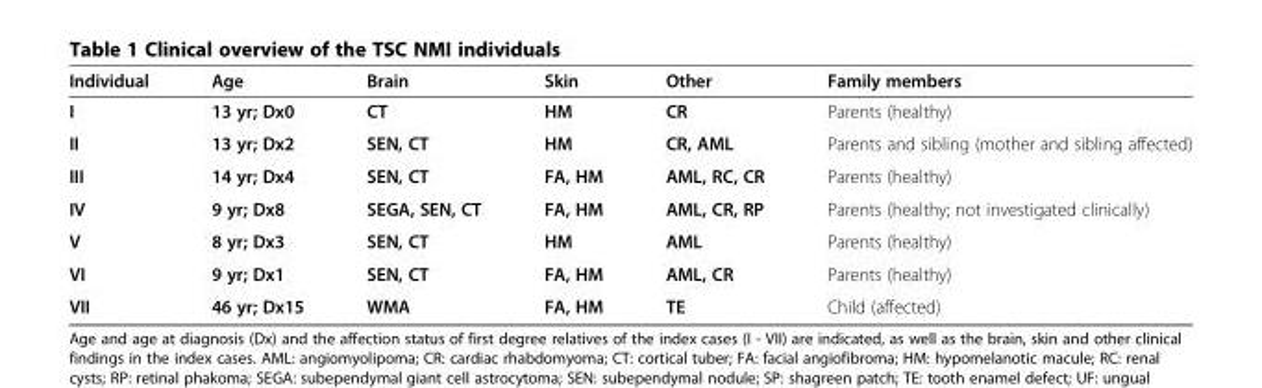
<table><thead><tr><td>Individual</td><td>Age</td><td>Brain</td><td>Skin</td><td>Other</td><td>Family members</td></tr></thead><tbody><tr><td>I</td><td>13 yr; Dx0</td><td>CT</td><td>HM</td><td>CR</td><td>Parents (healthy)</td></tr><tr><td>II</td><td>13 yr; Dx2</td><td>SEN, CT</td><td>HM</td><td>CR, AML</td><td>Parents and sibling (mother and sibling affected)</td></tr><tr><td>III</td><td>14 yr; Dx4</td><td>SEN, CT</td><td>FA, HM</td><td>AML, RC, CR</td><td>Parents (healthy)</td></tr><tr><td>IV</td><td>9 yr; Dx8</td><td>SEGA, SEN, CT</td><td>FA, HM</td><td>AML, CR, RP</td><td>Parents (healthy; not investigated clinically)</td></tr><tr><td>V</td><td>8 yr; Dx3</td><td>SEN, CT</td><td>HM</td><td>AML</td><td>Parents (healthy)</td></tr><tr><td>VI</td><td>9 yr; Dx1</td><td>SEN, CT</td><td>FA, HM</td><td>AML, CR</td><td>Parents (healthy)</td></tr><tr><td>VII</td><td>46 yr; Dx15</td><td>WMA</td><td>FA, HM</td><td>TE</td><td>Child (affected)</td></tr></tbody></table>